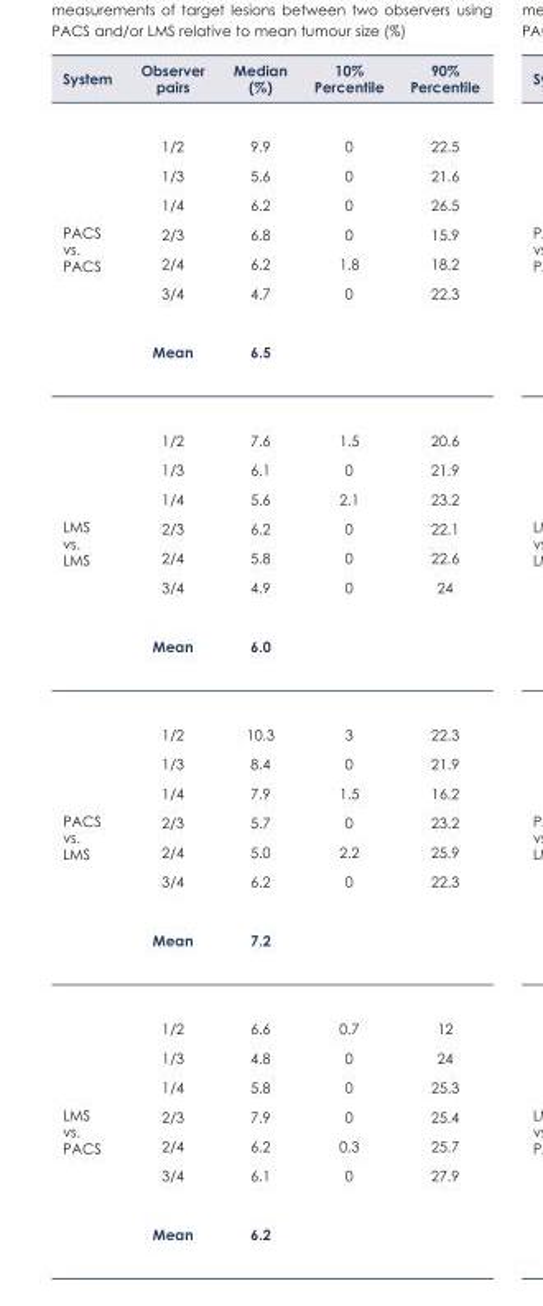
<table><thead><tr><td>System</td><td>Observer pairs</td><td>Median (%)</td><td>10% Percentile</td><td>90% Percentile</td></tr></thead><tbody><tr><td rowspan="7">PACS vs. PACS</td><td>1/2</td><td>9.9</td><td>0</td><td>22.5</td></tr><tr><td>1/3</td><td>5.6</td><td>0</td><td>21.6</td></tr><tr><td>1/4</td><td>6.2</td><td>0</td><td>26.5</td></tr><tr><td>2/3</td><td>6.8</td><td>0</td><td>15.9</td></tr><tr><td>2/4</td><td>6.2</td><td>1.8</td><td>18.2</td></tr><tr><td>3/4</td><td>4.7</td><td>0</td><td>22.3</td></tr><tr><td>Mean</td><td>6.5</td><td></td><td></td></tr><tr><td rowspan="7">LMS vs. LMS</td><td>1/2</td><td>7.6</td><td>1.5</td><td>20.6</td></tr><tr><td>1/3</td><td>6.1</td><td>0</td><td>21.9</td></tr><tr><td>1/4</td><td>5.6</td><td>2.1</td><td>23.2</td></tr><tr><td>2/3</td><td>6.2</td><td>0</td><td>22.1</td></tr><tr><td>2/4</td><td>5.8</td><td>0</td><td>22.6</td></tr><tr><td>3/4</td><td>4.9</td><td>0</td><td>24</td></tr><tr><td>Mean</td><td>6.0</td><td></td><td></td></tr><tr><td rowspan="7">PACS vs. LMS</td><td>1/2</td><td>10.3</td><td>3</td><td>22.3</td></tr><tr><td>1/3</td><td>8.4</td><td>0</td><td>21.9</td></tr><tr><td>1/4</td><td>7.9</td><td>1.5</td><td>16.2</td></tr><tr><td>2/3</td><td>5.7</td><td>0</td><td>23.2</td></tr><tr><td>2/4</td><td>5.0</td><td>2.2</td><td>25.9</td></tr><tr><td>3/4</td><td>6.2</td><td>0</td><td>22.3</td></tr><tr><td>Mean</td><td>7.2</td><td></td><td></td></tr><tr><td rowspan="7">LMS vs. PACS</td><td>1/2</td><td>6.6</td><td>0.7</td><td>12</td></tr><tr><td>1/3</td><td>4.8</td><td>0</td><td>24</td></tr><tr><td>1/4</td><td>5.8</td><td>0</td><td>25.3</td></tr><tr><td>2/3</td><td>7.9</td><td>0</td><td>25.4</td></tr><tr><td>2/4</td><td>6.2</td><td>0.3</td><td>25.7</td></tr><tr><td>3/4</td><td>6.1</td><td>0</td><td>27.9</td></tr><tr><td>Mean</td><td>6.2</td><td></td><td></td></tr></tbody></table>